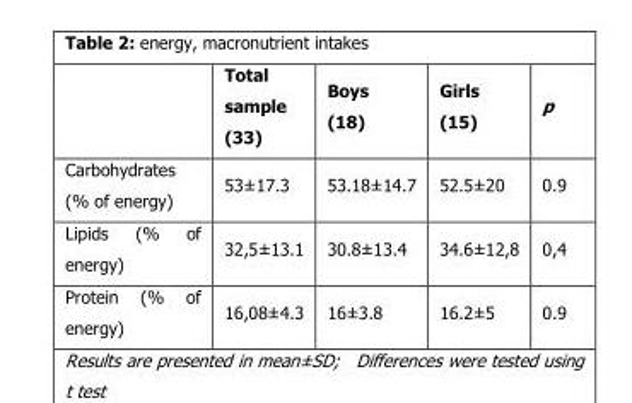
<table><thead><tr><td></td><td>Total sample (33)</td><td>Boys (18)</td><td>Girls (15)</td><td>p</td></tr></thead><tbody><tr><td>Carbohydrates (% of energy)</td><td>53±17.3</td><td>53.18±14.7</td><td>52.5±20</td><td>0.9</td></tr><tr><td>Lipids (% of energy)</td><td>32,5±13.1</td><td>30.8±13.4</td><td>34.6±12,8</td><td>0,4</td></tr><tr><td>Protein (% of energy)</td><td>16,08±4.3</td><td>16±3.8</td><td>16.2±5</td><td>0.9</td></tr></tbody></table>